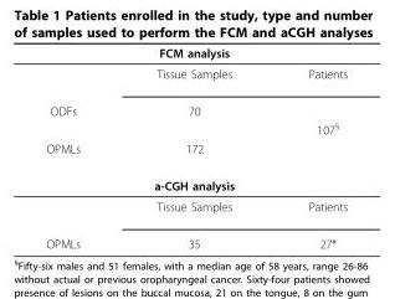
<table><thead><tr><td></td><td>FCM analysis</td><td></td></tr></thead><tbody><tr><td></td><td>Tissue Samples</td><td>Patients</td></tr><tr><td rowspan="2">ODFs</td><td>70</td><td></td></tr><tr><td></td><td>107<sup>§</sup></td></tr><tr><td rowspan="3">OPMLs</td><td>172</td><td></td></tr><tr><td>a-CGH analysis</td><td></td></tr><tr><td>Tissue Samples</td><td>Patients</td></tr><tr><td>OPMLs</td><td>35</td><td>27*</td></tr></tbody></table>